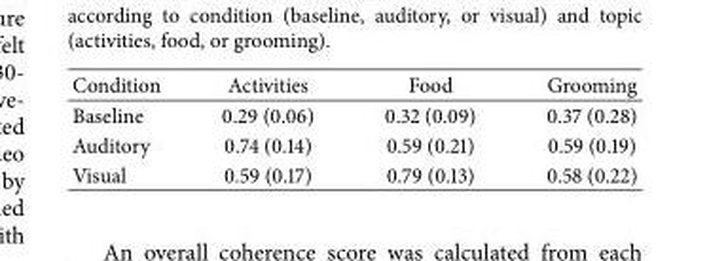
<table><thead><tr><td>Condition</td><td>Activities</td><td>Food</td><td>Grooming</td></tr></thead><tbody><tr><td>Baseline</td><td>0.29 (0.06)</td><td>0.32 (0.09)</td><td>0.37 (0.28)</td></tr><tr><td>Auditory</td><td>0.74 (0.14)</td><td>0.59 (0.21)</td><td>0.59 (0.19)</td></tr><tr><td>Visual</td><td>0.59 (0.17)</td><td>0.79 (0.13)</td><td>0.58 (0.22)</td></tr></tbody></table>